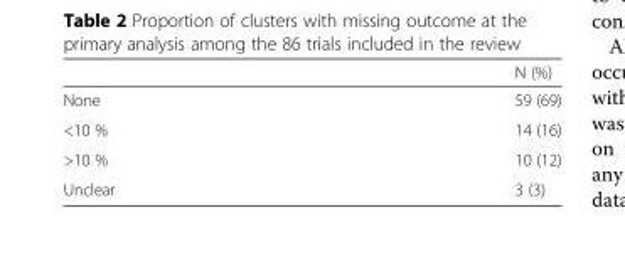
<table><thead><tr><td></td><td>N (%)</td></tr></thead><tbody><tr><td>None</td><td>59 (69)</td></tr><tr><td>&lt;10 %</td><td>14 (16)</td></tr><tr><td>&gt;10 %</td><td>10 (12)</td></tr><tr><td>Unclear</td><td>3 (3)</td></tr></tbody></table>